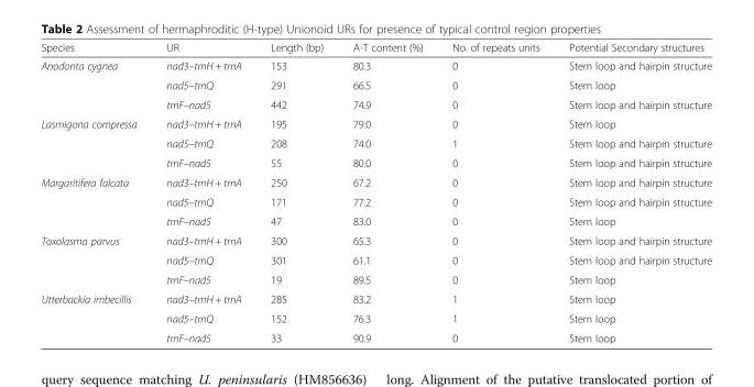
<table><thead><tr><td>Species</td><td>UR</td><td>Length (bp)</td><td>A-T content (%)</td><td>No. of repeats units</td><td>Potential Secondary structures</td></tr></thead><tbody><tr><td rowspan="3">Anodonta cygnea</td><td>nad3–trnH + trnA</td><td>153</td><td>80.3</td><td>0</td><td>Stem loop and hairpin structure</td></tr><tr><td>nad5–trnQ</td><td>291</td><td>66.5</td><td>0</td><td>Stem loop</td></tr><tr><td>trnF–nad5</td><td>442</td><td>74.9</td><td>0</td><td>Stem loop and hairpin structure</td></tr><tr><td rowspan="3">Lasmigona compressa</td><td>nad3–trnH + trnA</td><td>195</td><td>79.0</td><td>0</td><td>Stem loop</td></tr><tr><td>nad5–trnQ</td><td>208</td><td>74.0</td><td>1</td><td>Stem loop and hairpin structure</td></tr><tr><td>trnF–nad5</td><td>55</td><td>80.0</td><td>0</td><td>Stem loop and hairpin structure</td></tr><tr><td rowspan="3">Margaritifera falcata</td><td>nad3–trnH + trnA</td><td>250</td><td>67.2</td><td>0</td><td>Stem loop and hairpin structure</td></tr><tr><td>nad5–trnQ</td><td>171</td><td>77.2</td><td>0</td><td>Stem loop and hairpin structure</td></tr><tr><td>trnF–nad5</td><td>47</td><td>83.0</td><td>0</td><td>Stem loop</td></tr><tr><td rowspan="3">Toxolasma parvus</td><td>nad3–trnH + trnA</td><td>300</td><td>65.3</td><td>0</td><td>Stem loop and hairpin structure</td></tr><tr><td>nad5–trnQ</td><td>301</td><td>61.1</td><td>0</td><td>Stem loop and hairpin structure</td></tr><tr><td>trnF–nad5</td><td>19</td><td>89.5</td><td>0</td><td>Stem loop</td></tr><tr><td rowspan="3">Utterbackia imbecillis</td><td>nad3–trnH + trnA</td><td>285</td><td>83.2</td><td>1</td><td>Stem loop</td></tr><tr><td>nad5–trnQ</td><td>152</td><td>76.3</td><td>1</td><td>Stem loop</td></tr><tr><td>trnF–nad5</td><td>33</td><td>90.9</td><td>0</td><td>Stem loop</td></tr></tbody></table>